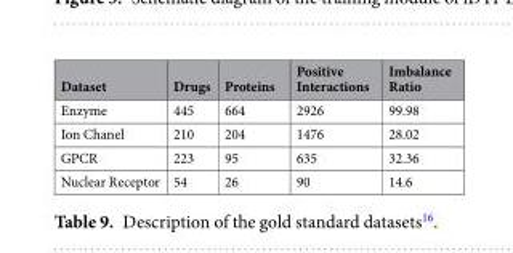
<table><thead><tr><td>Dataset</td><td>Drugs</td><td>Proteins</td><td>Positive Interactions</td><td>Imbalance Ratio</td></tr></thead><tbody><tr><td>Enzyme</td><td>445</td><td>664</td><td>2926</td><td>99.98</td></tr><tr><td>Ion Chanel</td><td>210</td><td>204</td><td>1476</td><td>28.02</td></tr><tr><td>GPCR</td><td>223</td><td>95</td><td>635</td><td>32.36</td></tr><tr><td>Nuclear Receptor</td><td>54</td><td>26</td><td>90</td><td>14.6</td></tr></tbody></table>